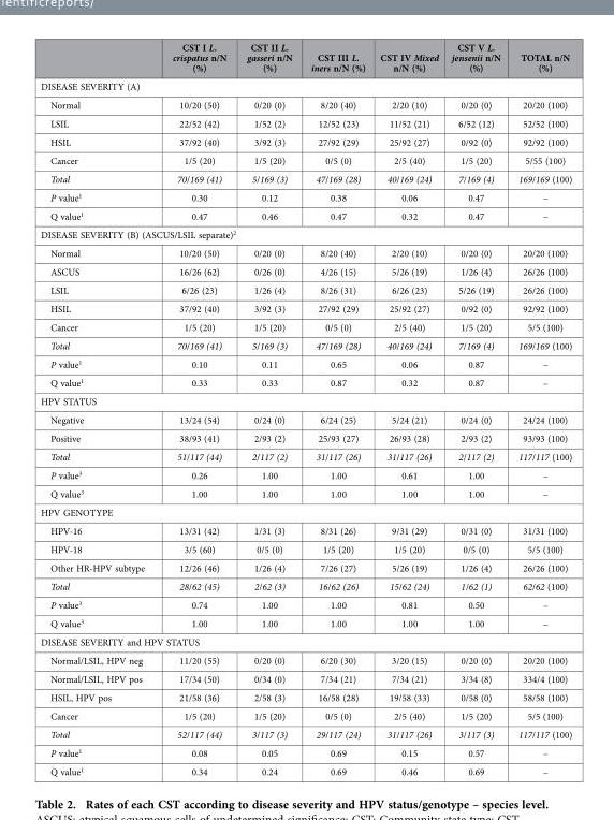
<table><thead><tr><td></td><td>CST I L. crispatus n/N (%)</td><td>CST II L. gasseri n/N (%)</td><td>CST III L. iners n/N (%)</td><td>CST IV Mixed n/N (%)</td><td>CST V L. jensenii n/N (%)</td><td>TOTAL n/N (%)</td></tr></thead><tbody><tr><td colspan="7">DISEASE SEVERITY (A)</td></tr><tr><td>Normal</td><td>10/20 (50)</td><td>0/20 (0)</td><td>8/20 (40)</td><td>2/20 (10)</td><td>0/20 (0)</td><td>20/20 (100)</td></tr><tr><td>LSIL</td><td>22/52 (42)</td><td>1/52 (2)</td><td>12/52 (23)</td><td>11/52 (21)</td><td>6/52 (12)</td><td>52/52 (100)</td></tr><tr><td>HSIL</td><td>37/92 (40)</td><td>3/92 (3)</td><td>27/92 (29)</td><td>25/92 (27)</td><td>0/92 (0)</td><td>92/92 (100)</td></tr><tr><td>Cancer</td><td>1/5 (20)</td><td>1/5 (20)</td><td>0/5 (0)</td><td>2/5 (40)</td><td>1/5 (20)</td><td>5/55 (100)</td></tr><tr><td>Total</td><td>70/169 (41)</td><td>5/169 (3)</td><td>47/169 (28)</td><td>40/169 (24)</td><td>7/169 (4)</td><td>169/169 (100)</td></tr><tr><td>P value<sup>1</sup></td><td>0.30</td><td>0.12</td><td>0.38</td><td>0.06</td><td>0.47</td><td>–</td></tr><tr><td>Q value<sup>1</sup></td><td>0.47</td><td>0.46</td><td>0.47</td><td>0.32</td><td>0.47</td><td>–</td></tr><tr><td colspan="7">DISEASE SEVERITY (B) (ASCUS/LSIL separate)<sup>2</sup></td></tr><tr><td>Normal</td><td>10/20 (50)</td><td>0/20 (0)</td><td>8/20 (40)</td><td>2/20 (10)</td><td>0/20 (0)</td><td>20/20 (100)</td></tr><tr><td>ASCUS</td><td>16/26 (62)</td><td>0/26 (0)</td><td>4/26 (15)</td><td>5/26 (19)</td><td>1/26 (4)</td><td>26/26 (100)</td></tr><tr><td>LSIL</td><td>6/26 (23)</td><td>1/26 (4)</td><td>8/26 (31)</td><td>6/26 (23)</td><td>5/26 (19)</td><td>26/26 (100)</td></tr><tr><td>HSIL</td><td>37/92 (40)</td><td>3/92 (3)</td><td>27/92 (29)</td><td>25/92 (27)</td><td>0/92 (0)</td><td>92/92 (100)</td></tr><tr><td>Cancer</td><td>1/5 (20)</td><td>1/5 (20)</td><td>0/5 (0)</td><td>2/5 (40)</td><td>1/5 (20)</td><td>5/5 (100)</td></tr><tr><td>Total</td><td>70/169 (41)</td><td>5/169 (3)</td><td>47/169 (28)</td><td>40/169 (24)</td><td>7/169 (4)</td><td>169/169 (100)</td></tr><tr><td>P value<sup>1</sup></td><td>0.10</td><td>0.11</td><td>0.65</td><td>0.06</td><td>0.87</td><td>–</td></tr><tr><td>Q value<sup>1</sup></td><td>0.33</td><td>0.33</td><td>0.87</td><td>0.32</td><td>0.87</td><td>–</td></tr><tr><td colspan="7">HPV STATUS</td></tr><tr><td>Negative</td><td>13/24 (54)</td><td>0/24 (0)</td><td>6/24 (25)</td><td>5/24 (21)</td><td>0/24 (0)</td><td>24/24 (100)</td></tr><tr><td>Positive</td><td>38/93 (41)</td><td>2/93 (2)</td><td>25/93 (27)</td><td>26/93 (28)</td><td>2/93 (2)</td><td>93/93 (100)</td></tr><tr><td>Total</td><td>51/117 (44)</td><td>2/117 (2)</td><td>31/117 (26)</td><td>31/117 (26)</td><td>2/117 (2)</td><td>117/117 (100)</td></tr><tr><td>P value<sup>3</sup></td><td>0.26</td><td>1.00</td><td>1.00</td><td>0.61</td><td>1.00</td><td>–</td></tr><tr><td>Q value<sup>3</sup></td><td>1.00</td><td>1.00</td><td>1.00</td><td>1.00</td><td>1.00</td><td>–</td></tr><tr><td colspan="7">HPV GENOTYPE</td></tr><tr><td>HPV-16</td><td>13/31 (42)</td><td>1/31 (3)</td><td>8/31 (26)</td><td>9/31 (29)</td><td>0/31 (0)</td><td>31/31 (100)</td></tr><tr><td>HPV-18</td><td>3/5 (60)</td><td>0/5 (0)</td><td>1/5 (20)</td><td>1/5 (20)</td><td>0/5 (0)</td><td>5/5 (100)</td></tr><tr><td>Other HR-HPV subtype</td><td>12/26 (46)</td><td>1/26 (4)</td><td>7/26 (27)</td><td>5/26 (19)</td><td>1/26 (4)</td><td>26/26 (100)</td></tr><tr><td>Total</td><td>28/62 (45)</td><td>2/62 (3)</td><td>16/62 (26)</td><td>15/62 (24)</td><td>1/62 (1)</td><td>62/62 (100)</td></tr><tr><td>P value<sup>3</sup></td><td>0.74</td><td>1.00</td><td>1.00</td><td>0.81</td><td>0.50</td><td>–</td></tr><tr><td>Q value<sup>3</sup></td><td>1.00</td><td>1.00</td><td>1.00</td><td>1.00</td><td>1.00</td><td>–</td></tr><tr><td colspan="7">DISEASE SEVERITY and HPV STATUS</td></tr><tr><td>Normal/LSIL, HPV neg</td><td>11/20 (55)</td><td>0/20 (0)</td><td>6/20 (30)</td><td>3/20 (15)</td><td>0/20 (0)</td><td>20/20 (100)</td></tr><tr><td>Normal/LSIL, HPV pos</td><td>17/34 (50)</td><td>0/34 (0)</td><td>7/34 (21)</td><td>7/34 (21)</td><td>3/34 (8)</td><td>334/4 (100)</td></tr><tr><td>HSIL, HPV pos</td><td>21/58 (36)</td><td>2/58 (3)</td><td>16/58 (28)</td><td>19/58 (33)</td><td>0/58 (0)</td><td>58/58 (100)</td></tr><tr><td>Cancer</td><td>1/5 (20)</td><td>1/5 (20)</td><td>0/5 (0)</td><td>2/5 (40)</td><td>1/5 (20)</td><td>5/5 (100)</td></tr><tr><td>Total</td><td>52/117 (44)</td><td>3/117 (3)</td><td>29/117 (24)</td><td>31/117 (26)</td><td>3/117 (3)</td><td>117/117 (100)</td></tr><tr><td>P value<sup>1</sup></td><td>0.08</td><td>0.05</td><td>0.69</td><td>0.15</td><td>0.57</td><td>–</td></tr><tr><td>Q value<sup>1</sup></td><td>0.34</td><td>0.24</td><td>0.69</td><td>0.46</td><td>0.69</td><td>–</td></tr></tbody></table>